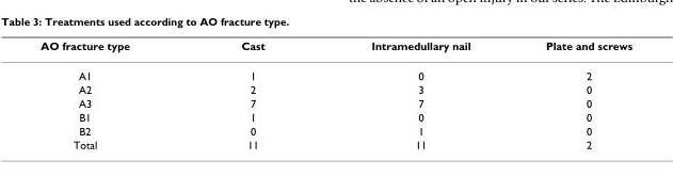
<table><thead><tr><td>AO fracture type</td><td>Cast</td><td>Intramedullary nail</td><td>Plate and screws</td></tr></thead><tbody><tr><td>A1</td><td>1</td><td>0</td><td>2</td></tr><tr><td>A2</td><td>2</td><td>3</td><td>0</td></tr><tr><td>A3</td><td>7</td><td>7</td><td>0</td></tr><tr><td>B1</td><td>1</td><td>0</td><td>0</td></tr><tr><td>B2</td><td>0</td><td>1</td><td>0</td></tr><tr><td>Total</td><td>11</td><td>11</td><td>2</td></tr></tbody></table>